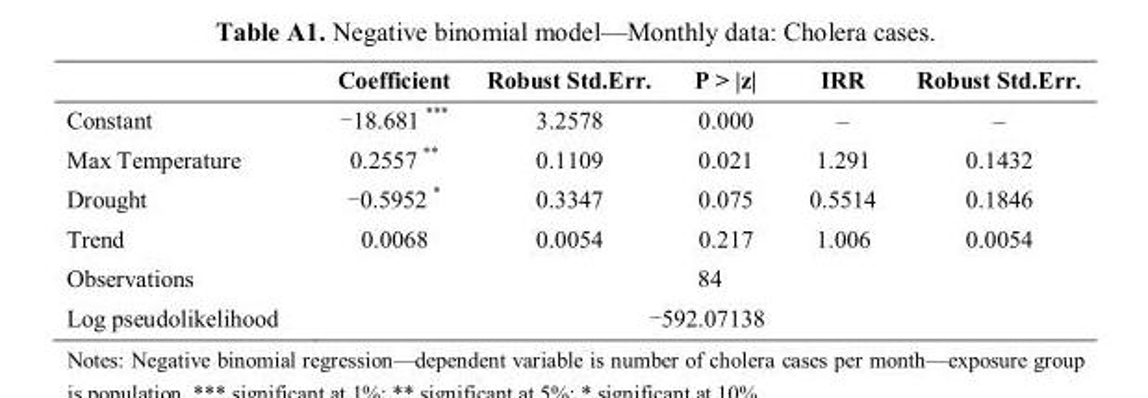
<table><thead><tr><td></td><td>Coefficient</td><td>Robust Std.Err.</td><td>P &gt; |z|</td><td>IRR</td><td>Robust Std.Err.</td></tr></thead><tbody><tr><td>Constant</td><td>-18.681 ***</td><td>3.2578</td><td>0.000</td><td>–</td><td>–</td></tr><tr><td>Max Temperature</td><td>0.2557 **</td><td>0.1109</td><td>0.021</td><td>1.291</td><td>0.1432</td></tr><tr><td>Drought</td><td>-0.5952 *</td><td>0.3347</td><td>0.075</td><td>0.5514</td><td>0.1846</td></tr><tr><td>Trend</td><td>0.0068</td><td>0.0054</td><td>0.217</td><td>1.006</td><td>0.0054</td></tr><tr><td>Observations</td><td colspan="5">84</td></tr><tr><td>Log pseudolikelihood</td><td colspan="5">-592.07138</td></tr></tbody></table>